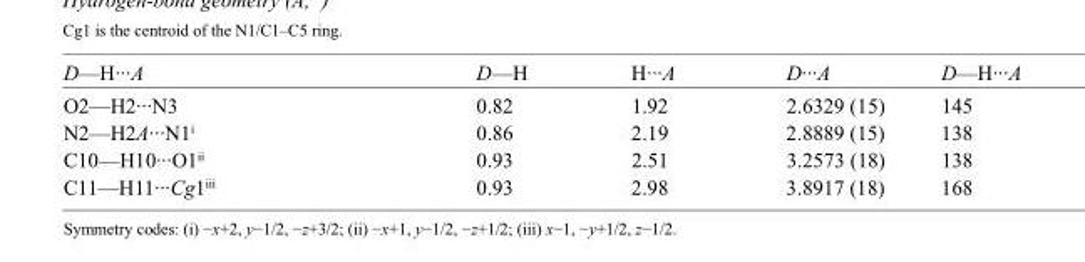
<table><tbody><tr><td>D—H···A</td><td>D—H</td><td>H···A</td><td>D···A</td><td>D—H···A</td></tr><tr><td>O2—H2···N3</td><td>0.82</td><td>1.92</td><td>2.6329 (15)</td><td>145</td></tr><tr><td>N2—H2A···N1<sup>i</sup></td><td>0.86</td><td>2.19</td><td>2.8889 (15)</td><td>138</td></tr><tr><td>C10—H10···O1<sup>ii</sup></td><td>0.93</td><td>2.51</td><td>3.2573 (18)</td><td>138</td></tr><tr><td>C11—H11···Cg1<sup>iii</sup></td><td>0.93</td><td>2.98</td><td>3.8917 (18)</td><td>168</td></tr></tbody></table>